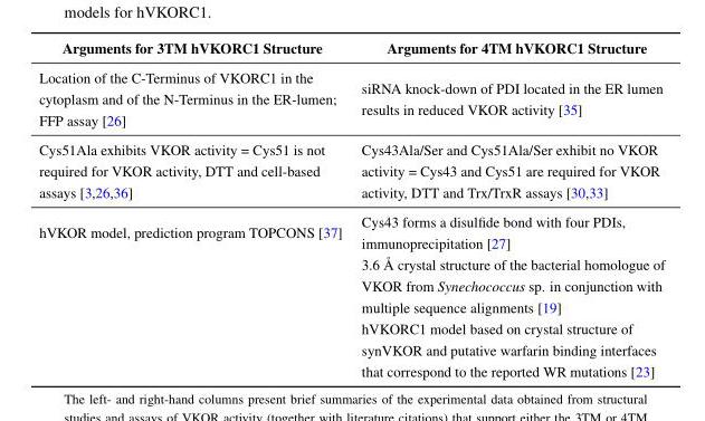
<table><thead><tr><td>Arguments for 3TM hVKORC1 Structure</td><td>Arguments for 4TM hVKORC1 Structure</td></tr></thead><tbody><tr><td>Location of the C-Terminus of VKORC1 in the cytoplasm and of the N-Terminus in the ER-lumen; FFP assay [26]</td><td>siRNA knock-down of PDI located in the ER lumen results in reduced VKOR activity [35]</td></tr><tr><td>Cys51Ala exhibits VKOR activity = Cys51 is not required for VKOR activity, DTT and cell-based assays [3,26,36]</td><td>Cys43Ala/Ser and Cys51Ala/Ser exhibit no VKOR activity = Cys43 and Cys51 are required for VKOR activity, DTT and Trx/TrxR assays [30,33]</td></tr><tr><td rowspan="3">hVKOR model, prediction program TOPCONS [37]</td><td>Cys43 forms a disulfide bond with four PDIs, immunoprecipitation [27]</td></tr><tr><td>3.6 Å crystal structure of the bacterial homologue of VKOR from Synechococcus sp. in conjunction with multiple sequence alignments [19]</td></tr><tr><td>hVKORC1 model based on crystal structure of synVKOR and putative warfarin binding interfaces that correspond to the reported WR mutations [23]</td></tr></tbody></table>